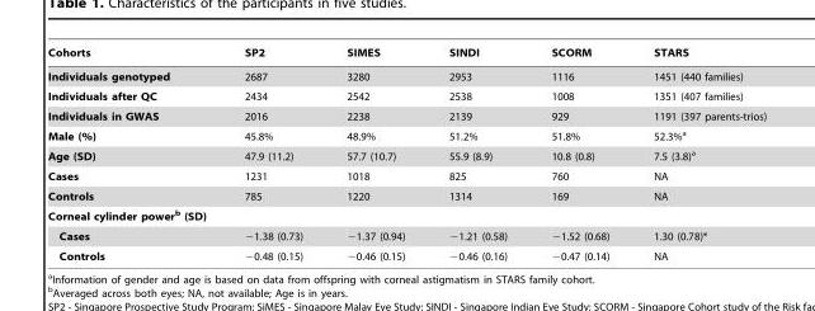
<table><thead><tr><td>Cohorts</td><td>SP2</td><td>SIMES</td><td>SINDI</td><td>SCORM</td><td>STARS</td></tr></thead><tbody><tr><td>Individuals genotyped</td><td>2687</td><td>3280</td><td>2953</td><td>1116</td><td>1451 (440 families)</td></tr><tr><td>Individuals after QC</td><td>2434</td><td>2542</td><td>2538</td><td>1008</td><td>1351 (407 families)</td></tr><tr><td>Individuals in GWAS</td><td>2016</td><td>2238</td><td>2139</td><td>929</td><td>1191 (397 parents-trios)</td></tr><tr><td>Male (%)</td><td>45.8%</td><td>48.9%</td><td>51.2%</td><td>51.8%</td><td>52.3%<sup>a</sup></td></tr><tr><td>Age (SD)</td><td>47.9 (11.2)</td><td>57.7 (10.7)</td><td>55.9 (8.9)</td><td>10.8 (0.8)</td><td>7.5 (3.8)<sup>a</sup></td></tr><tr><td>Cases</td><td>1231</td><td>1018</td><td>825</td><td>760</td><td>NA</td></tr><tr><td>Controls</td><td>785</td><td>1220</td><td>1314</td><td>169</td><td>NA</td></tr><tr><td colspan="6">Corneal cylinder powerb (SD)</td></tr><tr><td>Cases</td><td>−1.38 (0.73)</td><td>−1.37 (0.94)</td><td>−1.21 (0.58)</td><td>−1.52 (0.68)</td><td>1.30 (0.78)*</td></tr><tr><td>Controls</td><td>−0.48 (0.15)</td><td>−0.46 (0.15)</td><td>−0.46 (0.16)</td><td>−0.47 (0.14)</td><td>NA</td></tr></tbody></table>